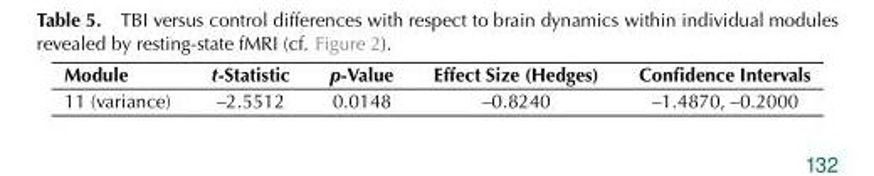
<table><thead><tr><td>Module</td><td>t-Statistic</td><td>p-Value</td><td>Effect Size (Hedges)</td><td>Confidence Intervals</td></tr></thead><tbody><tr><td>11 (variance)</td><td>–2.5512</td><td>0.0148</td><td>–0.8240</td><td>–1.4870, –0.2000</td></tr></tbody></table>